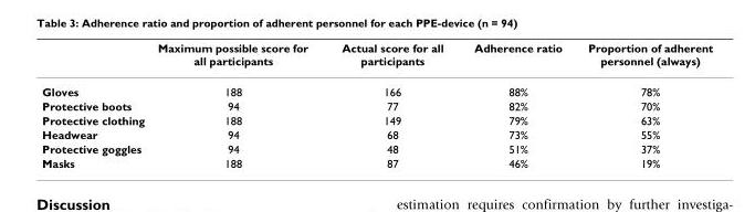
<table><thead><tr><td></td><td>Maximum possible score for all participants</td><td>Actual score for all participants</td><td>Adherence ratio</td><td>Proportion of adherent personnel (always)</td></tr></thead><tbody><tr><td>Gloves</td><td>188</td><td>166</td><td>88%</td><td>78%</td></tr><tr><td>Protective boots</td><td>94</td><td>77</td><td>82%</td><td>70%</td></tr><tr><td>Protective clothing</td><td>188</td><td>149</td><td>79%</td><td>63%</td></tr><tr><td>Headwear</td><td>94</td><td>68</td><td>73%</td><td>55%</td></tr><tr><td>Protective goggles</td><td>94</td><td>48</td><td>51%</td><td>37%</td></tr><tr><td>Masks</td><td>188</td><td>87</td><td>46%</td><td>19%</td></tr></tbody></table>